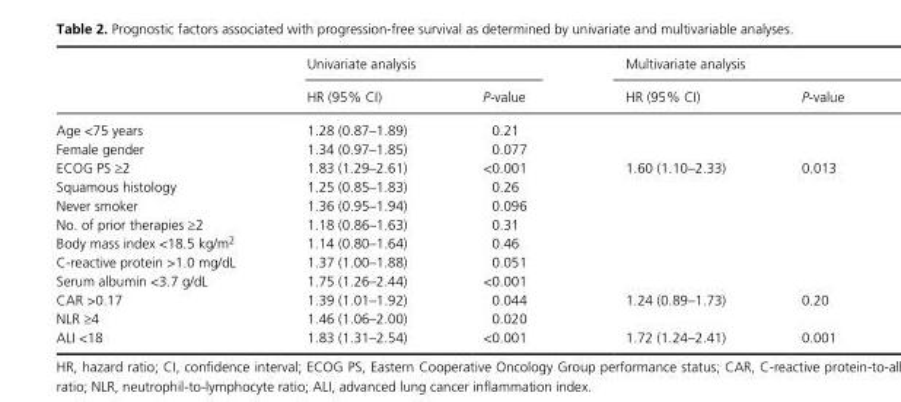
<table><thead><tr><td rowspan="2"></td><td colspan="2">Univariate analysis</td><td colspan="2">Multivariate analysis</td></tr><tr><td>HR (95% CI)</td><td>P- value</td><td>HR (95% CI)</td><td>P- value</td></tr></thead><tbody><tr><td>Age &lt;75 years</td><td>1.28 (0.87–1.89)</td><td>0.21</td><td></td><td></td></tr><tr><td>Female gender</td><td>1.34 (0.97–1.85)</td><td>0.077</td><td></td><td></td></tr><tr><td>ECOG PS ≥2</td><td>1.83 (1.29–2.61)</td><td>&lt;0.001</td><td>1.60 (1.10–2.33)</td><td>0.013</td></tr><tr><td>Squamous histology</td><td>1.25 (0.85–1.83)</td><td>0.26</td><td></td><td></td></tr><tr><td>Never smoker</td><td>1.36 (0.95–1.94)</td><td>0.096</td><td></td><td></td></tr><tr><td>No. of prior therapies ≥2</td><td>1.18 (0.86–1.63)</td><td>0.31</td><td></td><td></td></tr><tr><td>Body mass index &lt;18.5 kg/m<sup>2</sup></td><td>1.14 (0.80–1.64)</td><td>0.46</td><td></td><td></td></tr><tr><td>C- reactive protein &gt;1.0 mg/dL</td><td>1.37 (1.00–1.88)</td><td>0.051</td><td></td><td></td></tr><tr><td>Serum albumin &lt;3.7 g/dL</td><td>1.75 (1.26–2.44)</td><td>&lt;0.001</td><td></td><td></td></tr><tr><td>CAR &gt;0.17</td><td>1.39 (1.01–1.92)</td><td>0.044</td><td>1.24 (0.89–1.73)</td><td>0.20</td></tr><tr><td>NLR ≥4</td><td>1.46 (1.06–2.00)</td><td>0.020</td><td></td><td></td></tr><tr><td>ALI &lt;18</td><td>1.83 (1.31–2.54)</td><td>&lt;0.001</td><td>1.72 (1.24–2.41)</td><td>0.001</td></tr></tbody></table>